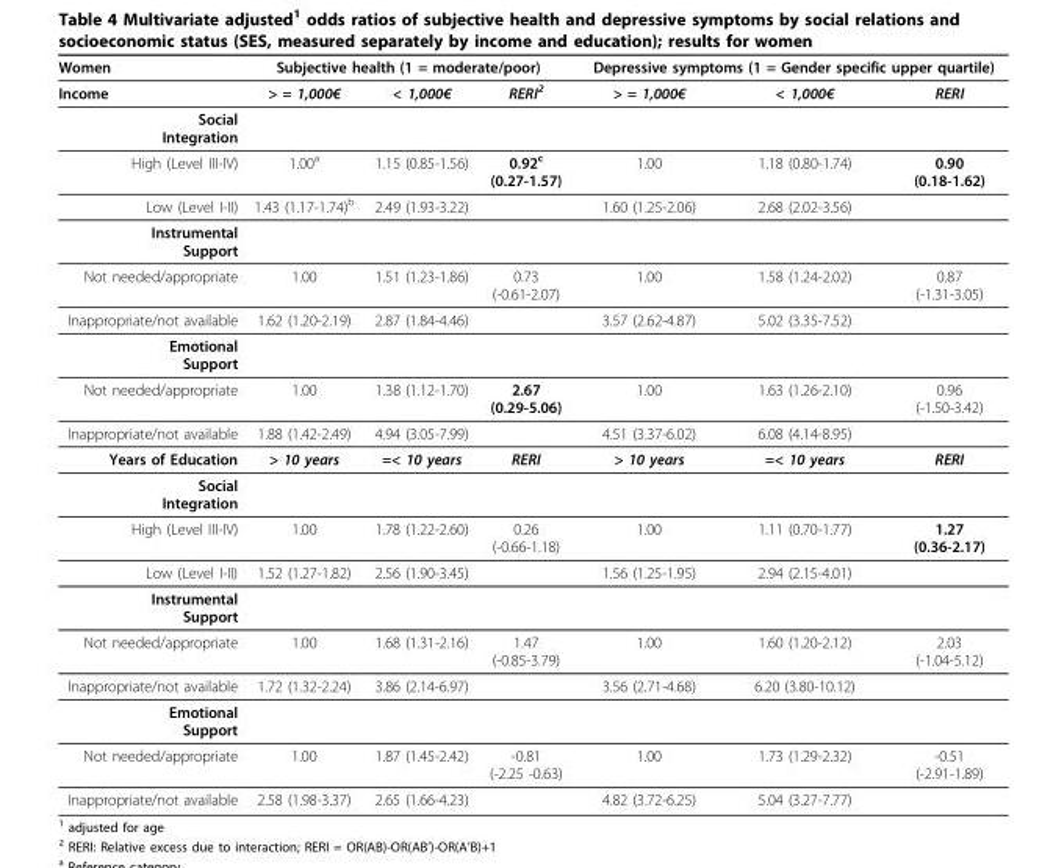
<table><thead><tr><td rowspan="2">Women Income</td><td colspan="3">Subjective health (1 = moderate/poor)</td><td colspan="3">Depressive symptoms (1 = Gender specific upper quartile)</td></tr><tr><td>&gt; = 1,000€</td><td>&lt; 1,000€</td><td>RERI2</td><td>&gt; = 1,000€</td><td>&lt; 1,000€</td><td>RERI</td></tr></thead><tbody><tr><td colspan="7">Social Integration</td></tr><tr><td>High (Level III-IV)</td><td>1.00a</td><td>1.15 (0.85-1.56)</td><td>0.92c (0.27-1.57)</td><td>1.00</td><td>1.18 (0.80-1.74)</td><td>0.90 (0.18-1.62)</td></tr><tr><td>Low (Level I-II)</td><td>1.43 (1.17-1.74)b</td><td>2.49 (1.93-3.22)</td><td></td><td>1.60 (1.25-2.06)</td><td>2.68 (2.02-3.56)</td><td></td></tr><tr><td colspan="7">Instrumental Support</td></tr><tr><td>Not needed/appropriate</td><td>1.00</td><td>1.51 (1.23-1.86)</td><td>0.73 (-0.61-2.07)</td><td>1.00</td><td>1.58 (1.24-2.02)</td><td>0.87 (-1.31-3.05)</td></tr><tr><td>Inappropriate/not available</td><td>1.62 (1.20-2.19)</td><td>2.87 (1.84-4.46)</td><td></td><td>3.57 (2.62-4.87)</td><td>5.02 (3.35-7.52)</td><td></td></tr><tr><td colspan="7">Emotional Support</td></tr><tr><td>Not needed/appropriate</td><td>1.00</td><td>1.38 (1.12-1.70)</td><td>2.67 (0.29-5.06)</td><td>1.00</td><td>1.63 (1.26-2.10)</td><td>0.96 (-1.50-3.42)</td></tr><tr><td>Inappropriate/not available</td><td>1.88 (1.42-2.49)</td><td>4.94 (3.05-7.99)</td><td></td><td>4.51 (3.37-6.02)</td><td>6.08 (4.14-8.95)</td><td></td></tr><tr><td>Years of Education</td><td>&gt; 10 years</td><td>=&lt; 10 years</td><td>RERI</td><td>&gt; 10 years</td><td>=&lt; 10 years</td><td>RERI</td></tr><tr><td colspan="7">Social Integration</td></tr><tr><td>High (Level III-IV)</td><td>1.00</td><td>1.78 (1.22-2.60)</td><td>0.26 (-0.66-1.18)</td><td>1.00</td><td>1.11 (0.70-1.77)</td><td>1.27 (0.36-2.17)</td></tr><tr><td>Low (Level I-II)</td><td>1.52 (1.27-1.82)</td><td>2.56 (1.90-3.45)</td><td></td><td>1.56 (1.25-1.95)</td><td>2.94 (2.15-4.01)</td><td></td></tr><tr><td colspan="7">Instrumental Support</td></tr><tr><td>Not needed/appropriate</td><td>1.00</td><td>1.68 (1.31-2.16)</td><td>1.47 (-0.85-3.79)</td><td>1.00</td><td>1.60 (1.20-2.12)</td><td>2.03 (-1.04-5.12)</td></tr><tr><td>Inappropriate/not available</td><td>1.72 (1.32-2.24)</td><td>3.86 (2.14-6.97)</td><td></td><td>3.56 (2.71-4.68)</td><td>6.20 (3.80-10.12)</td><td></td></tr><tr><td colspan="7">Emotional Support</td></tr><tr><td>Not needed/appropriate</td><td>1.00</td><td>1.87 (1.45-2.42)</td><td>-0.81 (-2.25 -0.63)</td><td>1.00</td><td>1.73 (1.29-2.32)</td><td>-0.51 (-2.91-1.89)</td></tr><tr><td>Inappropriate/not available</td><td>2.58 (1.98-3.37)</td><td>2.65 (1.66-4.23)</td><td></td><td>4.82 (3.72-6.25)</td><td>5.04 (3.27-7.77)</td><td></td></tr></tbody></table>